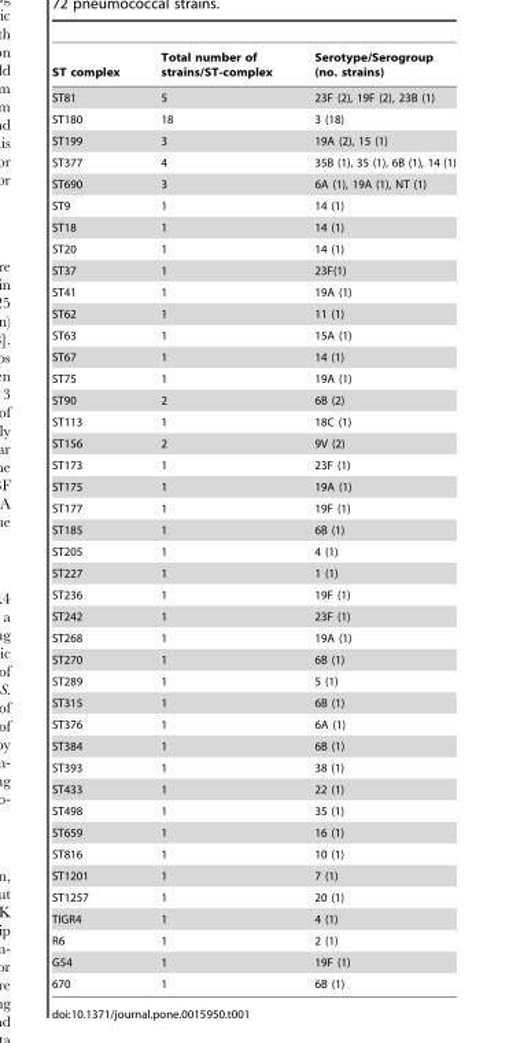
<table><thead><tr><td>ST complex</td><td>Total number of strains/ST-complex</td><td>Serotype/Serogroup (no. strains)</td></tr></thead><tbody><tr><td>ST81</td><td>5</td><td>23F (2), 19F (2), 23B (1)</td></tr><tr><td>ST180</td><td>18</td><td>3 (18)</td></tr><tr><td>ST199</td><td>3</td><td>19A (2), 15 (1)</td></tr><tr><td>ST377</td><td>4</td><td>35B (1), 35 (1), 6B (1), 14 (1)</td></tr><tr><td>ST690</td><td>3</td><td>6A (1), 19A (1), NT (1)</td></tr><tr><td>ST9</td><td>1</td><td>14 (1)</td></tr><tr><td>ST18</td><td>1</td><td>14 (1)</td></tr><tr><td>ST20</td><td>1</td><td>14 (1)</td></tr><tr><td>ST37</td><td>1</td><td>23F(1)</td></tr><tr><td>ST41</td><td>1</td><td>19A (1)</td></tr><tr><td>ST62</td><td>1</td><td>11 (1)</td></tr><tr><td>ST63</td><td>1</td><td>15A (1)</td></tr><tr><td>ST67</td><td>1</td><td>14 (1)</td></tr><tr><td>ST75</td><td>1</td><td>19A (1)</td></tr><tr><td>ST90</td><td>2</td><td>6B (2)</td></tr><tr><td>ST113</td><td>1</td><td>18C (1)</td></tr><tr><td>ST156</td><td>2</td><td>9V (2)</td></tr><tr><td>ST173</td><td>1</td><td>23F (1)</td></tr><tr><td>ST175</td><td>1</td><td>19A (1)</td></tr><tr><td>ST177</td><td>1</td><td>19F (1)</td></tr><tr><td>ST185</td><td>1</td><td>6B (1)</td></tr><tr><td>ST205</td><td>1</td><td>4 (1)</td></tr><tr><td>ST227</td><td>1</td><td>1 (1)</td></tr><tr><td>ST236</td><td>1</td><td>19F (1)</td></tr><tr><td>ST242</td><td>1</td><td>23F (1)</td></tr><tr><td>ST268</td><td>1</td><td>19A (1)</td></tr><tr><td>ST270</td><td>1</td><td>6B (1)</td></tr><tr><td>ST289</td><td>1</td><td>5 (1)</td></tr><tr><td>ST315</td><td>1</td><td>6B (1)</td></tr><tr><td>ST376</td><td>1</td><td>6A (1)</td></tr><tr><td>ST384</td><td>1</td><td>6B (1)</td></tr><tr><td>ST393</td><td>1</td><td>38 (1)</td></tr><tr><td>ST433</td><td>1</td><td>22 (1)</td></tr><tr><td>ST498</td><td>1</td><td>35 (1)</td></tr><tr><td>ST659</td><td>1</td><td>16 (1)</td></tr><tr><td>ST816</td><td>1</td><td>10 (1)</td></tr><tr><td>ST1201</td><td>1</td><td>7 (1)</td></tr><tr><td>ST1257</td><td>1</td><td>20 (1)</td></tr><tr><td>TIGR4</td><td>1</td><td>4 (1)</td></tr><tr><td>R6</td><td>1</td><td>2 (1)</td></tr><tr><td>G54</td><td>1</td><td>19F (1)</td></tr><tr><td>670</td><td>1</td><td>6B (1)</td></tr></tbody></table>